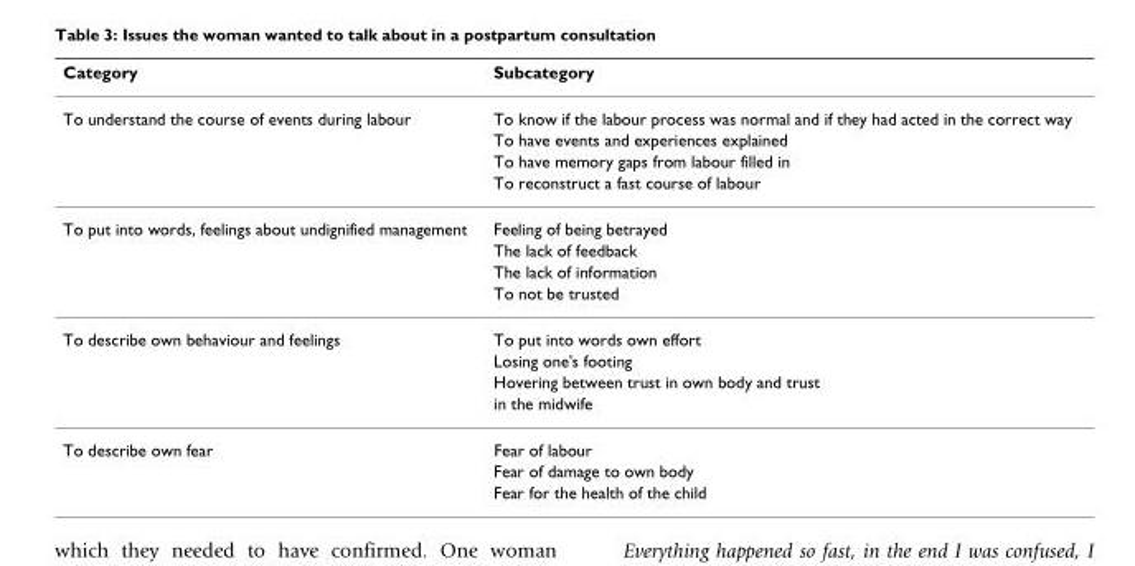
<table><thead><tr><td>Category</td><td>Subcategory</td></tr></thead><tbody><tr><td rowspan="4">To understand the course of events during labour</td><td>To know if the labour process was normal and if they had acted in the correct way</td></tr><tr><td>To have events and experiences explained</td></tr><tr><td>To have memory gaps from labour filled in</td></tr><tr><td>To reconstruct a fast course of labour</td></tr><tr><td rowspan="4">To put into words, feelings about undignified management</td><td>Feeling of being betrayed</td></tr><tr><td>The lack of feedback</td></tr><tr><td>The lack of information</td></tr><tr><td>To not be trusted</td></tr><tr><td rowspan="4">To describe own behaviour and feelings</td><td>To put into words own effort</td></tr><tr><td>Losing one&#x27;s footing</td></tr><tr><td>Hovering between trust in own body and trust</td></tr><tr><td>in the midwife</td></tr><tr><td rowspan="3">To describe own fear</td><td>Fear of labour</td></tr><tr><td>Fear of damage to own body</td></tr><tr><td>Fear for the health of the child</td></tr></tbody></table>